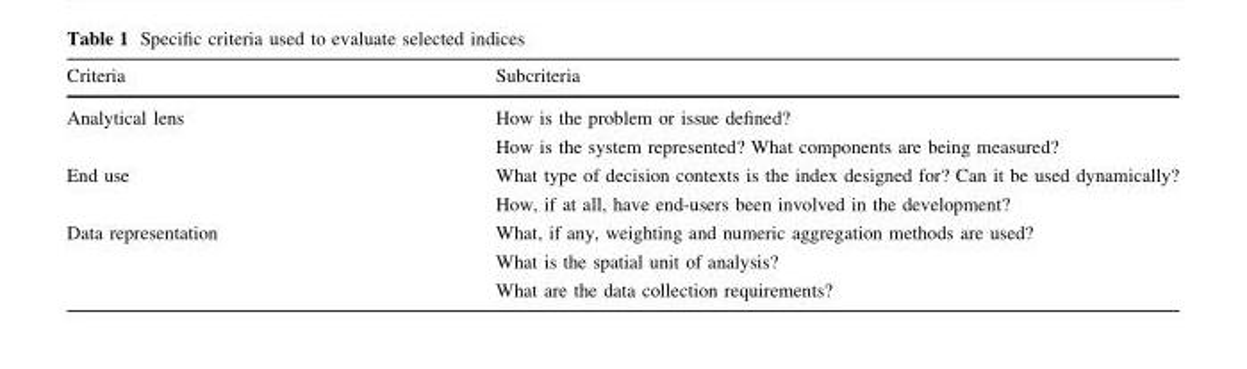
<table><thead><tr><td>Criteria</td><td>Subcriteria</td></tr></thead><tbody><tr><td rowspan="2">Analytical lens</td><td>How is the problem or issue defined?</td></tr><tr><td>How is the system represented? What components are being measured?</td></tr><tr><td rowspan="2">End use</td><td>What type of decision contexts is the index designed for? Can it be used dynamically?</td></tr><tr><td>How, if at all, have end-users been involved in the development?</td></tr><tr><td rowspan="3">Data representation</td><td>What, if any, weighting and numeric aggregation methods are used?</td></tr><tr><td>What is the spatial unit of analysis?</td></tr><tr><td>What are the data collection requirements?</td></tr></tbody></table>